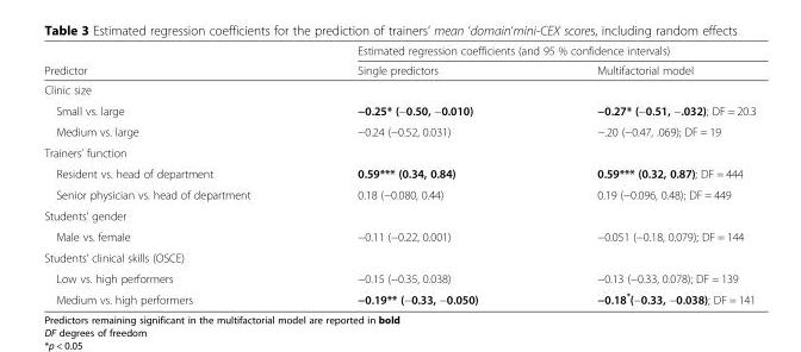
<table><thead><tr><td rowspan="2">Predictor</td><td colspan="2">Estimated regression coefficients (and 95 % confidence intervals)</td></tr><tr><td>Single predictors</td><td>Multifactorial model</td></tr></thead><tbody><tr><td colspan="3">Clinic size</td></tr><tr><td>Small vs. large</td><td>−0.25* (−0.50, −0.010)</td><td>−0.27* (−0.51, −.032); DF = 20.3</td></tr><tr><td>Medium vs. large</td><td>−0.24 (−0.52, 0.031)</td><td>−.20 (−0.47, .069); DF = 19</td></tr><tr><td colspan="3">Trainers’ function</td></tr><tr><td>Resident vs. head of department</td><td>0.59*** (0.34, 0.84)</td><td>0.59*** (0.32, 0.87); DF = 444</td></tr><tr><td>Senior physician vs. head of department</td><td>0.18 (−0.080, 0.44)</td><td>0.19 (−0.096, 0.48); DF = 449</td></tr><tr><td colspan="3">Students’ gender</td></tr><tr><td>Male vs. female</td><td>−0.11 (−0.22, 0.001)</td><td>−0.051 (−0.18, 0.079); DF = 144</td></tr><tr><td colspan="3">Students’ clinical skills (OSCE)</td></tr><tr><td>Low vs. high performers</td><td>−0.15 (−0.35, 0.038)</td><td>−0.13 (−0.33, 0.078); DF = 139</td></tr><tr><td>Medium vs. high performers</td><td>−0.19** (−0.33, −0.050)</td><td>−0.18*(−0.33, −0.038); DF = 141</td></tr></tbody></table>